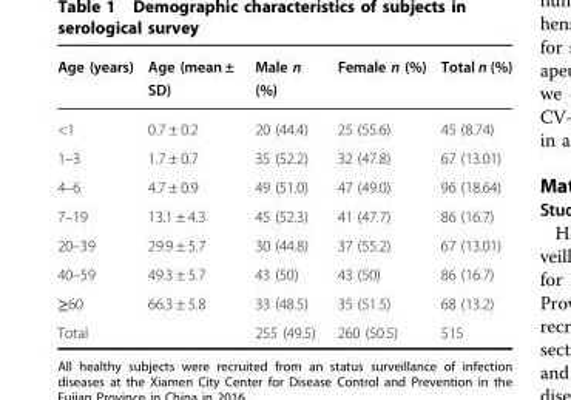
<table><thead><tr><td>Age (years)</td><td>Age (mean ± SD)</td><td>Male n (%)</td><td>Female n (%)</td><td>Total n (%)</td></tr></thead><tbody><tr><td>&lt;1</td><td>0.7 ± 0.2</td><td>20 (44.4)</td><td>25 (55.6)</td><td>45 (8.74)</td></tr><tr><td>1–3</td><td>1.7 ± 0.7</td><td>35 (52.2)</td><td>32 (47.8)</td><td>67 (13.01)</td></tr><tr><td>4–6</td><td>4.7 ± 0.9</td><td>49 (51.0)</td><td>47 (49.0)</td><td>96 (18.64)</td></tr><tr><td>7–19</td><td>13.1 ± 4.3</td><td>45 (52.3)</td><td>41 (47.7)</td><td>86 (16.7)</td></tr><tr><td>20–39</td><td>29.9 ± 5.7</td><td>30 (44.8)</td><td>37 (55.2)</td><td>67 (13.01)</td></tr><tr><td>40–59</td><td>49.3 ± 5.7</td><td>43 (50)</td><td>43 (50)</td><td>86 (16.7)</td></tr><tr><td>≥60</td><td>66.3 ± 5.8</td><td>33 (48.5)</td><td>35 (51.5)</td><td>68 (13.2)</td></tr><tr><td>Total</td><td></td><td>255 (49.5)</td><td>260 (50.5)</td><td>515</td></tr></tbody></table>